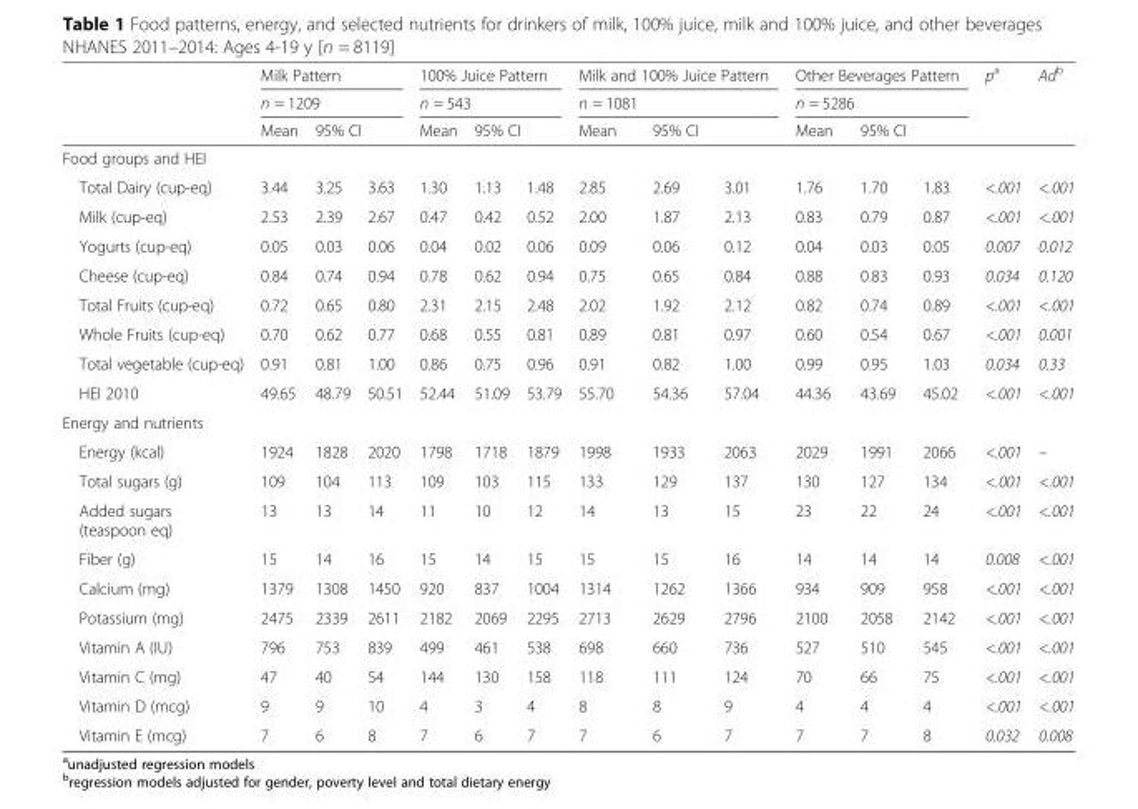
<table><thead><tr><td rowspan="3"></td><td rowspan="2" colspan="3">Milk Pattern n = 1209</td><td rowspan="2" colspan="3">100% Juice Pattern n = 543</td><td rowspan="2" colspan="3">Milk and 100% Juice Pattern n = 1081</td><td rowspan="2" colspan="3">Other Beverages Pattern n = 5286</td><td rowspan="3">p<sup>a</sup></td><td rowspan="3">Ad<sup>b</sup></td></tr><tr></tr><tr><td>Mean</td><td colspan="2">95% CI</td><td>Mean</td><td colspan="2">95% CI</td><td>Mean</td><td colspan="2">95% CI</td><td>Mean</td><td colspan="2">95% CI</td></tr><tr><td colspan="15">Food groups and HEI</td></tr><tr><td>Total Dairy (cup-eq)</td><td>3.44</td><td>3.25</td><td>3.63</td><td>1.30</td><td>1.13</td><td>1.48</td><td>2.85</td><td>2.69</td><td>3.01</td><td>1.76</td><td>1.70</td><td>1.83</td><td>&lt;.001</td><td>&lt;.001</td></tr></thead><tbody><tr><td>Milk (cup-eq)</td><td>2.53</td><td>2.39</td><td>2.67</td><td>0.47</td><td>0.42</td><td>0.52</td><td>2.00</td><td>1.87</td><td>2.13</td><td>0.83</td><td>0.79</td><td>0.87</td><td>&lt;.001</td><td>&lt;.001</td></tr><tr><td>Yogurts (cup-eq)</td><td>0.05</td><td>0.03</td><td>0.06</td><td>0.04</td><td>0.02</td><td>0.06</td><td>0.09</td><td>0.06</td><td>0.12</td><td>0.04</td><td>0.03</td><td>0.05</td><td>0.007</td><td>0.012</td></tr><tr><td>Cheese (cup-eq)</td><td>0.84</td><td>0.74</td><td>0.94</td><td>0.78</td><td>0.62</td><td>0.94</td><td>0.75</td><td>0.65</td><td>0.84</td><td>0.88</td><td>0.83</td><td>0.93</td><td>0.034</td><td>0.120</td></tr><tr><td>Total Fruits (cup-eq)</td><td>0.72</td><td>0.65</td><td>0.80</td><td>2.31</td><td>2.15</td><td>2.48</td><td>2.02</td><td>1.92</td><td>2.12</td><td>0.82</td><td>0.74</td><td>0.89</td><td>&lt;.001</td><td>&lt;.001</td></tr><tr><td>Whole Fruits (cup-eq)</td><td>0.70</td><td>0.62</td><td>0.77</td><td>0.68</td><td>0.55</td><td>0.81</td><td>0.89</td><td>0.81</td><td>0.97</td><td>0.60</td><td>0.54</td><td>0.67</td><td>&lt;.001</td><td>0.001</td></tr><tr><td>Total vegetable (cup-eq)</td><td>0.91</td><td>0.81</td><td>1.00</td><td>0.86</td><td>0.75</td><td>0.96</td><td>0.91</td><td>0.82</td><td>1.00</td><td>0.99</td><td>0.95</td><td>1.03</td><td>0.034</td><td>0.33</td></tr><tr><td>HEI 2010</td><td>49.65</td><td>48.79</td><td>50.51</td><td>52.44</td><td>51.09</td><td>53.79</td><td>55.70</td><td>54.36</td><td>57.04</td><td>44.36</td><td>43.69</td><td>45.02</td><td>&lt;.001</td><td>&lt;.001</td></tr><tr><td colspan="15">Energy and nutrients</td></tr><tr><td>Energy (kcal)</td><td>1924</td><td>1828</td><td>2020</td><td>1798</td><td>1718</td><td>1879</td><td>1998</td><td>1933</td><td>2063</td><td>2029</td><td>1991</td><td>2066</td><td>&lt;.001</td><td>–</td></tr><tr><td>Total sugars (g)</td><td>109</td><td>104</td><td>113</td><td>109</td><td>103</td><td>115</td><td>133</td><td>129</td><td>137</td><td>130</td><td>127</td><td>134</td><td>&lt;.001</td><td>&lt;.001</td></tr><tr><td>Added sugars (teaspoon eq)</td><td>13</td><td>13</td><td>14</td><td>11</td><td>10</td><td>12</td><td>14</td><td>13</td><td>15</td><td>23</td><td>22</td><td>24</td><td>&lt;.001</td><td>&lt;.001</td></tr><tr><td>Fiber (g)</td><td>15</td><td>14</td><td>16</td><td>15</td><td>14</td><td>15</td><td>15</td><td>15</td><td>16</td><td>14</td><td>14</td><td>14</td><td>0.008</td><td>&lt;.001</td></tr><tr><td>Calcium (mg)</td><td>1379</td><td>1308</td><td>1450</td><td>920</td><td>837</td><td>1004</td><td>1314</td><td>1262</td><td>1366</td><td>934</td><td>909</td><td>958</td><td>&lt;.001</td><td>&lt;.001</td></tr><tr><td>Potassium (mg)</td><td>2475</td><td>2339</td><td>2611</td><td>2182</td><td>2069</td><td>2295</td><td>2713</td><td>2629</td><td>2796</td><td>2100</td><td>2058</td><td>2142</td><td>&lt;.001</td><td>&lt;.001</td></tr><tr><td>Vitamin A (IU)</td><td>796</td><td>753</td><td>839</td><td>499</td><td>461</td><td>538</td><td>698</td><td>660</td><td>736</td><td>527</td><td>510</td><td>545</td><td>&lt;.001</td><td>&lt;.001</td></tr><tr><td>Vitamin C (mg)</td><td>47</td><td>40</td><td>54</td><td>144</td><td>130</td><td>158</td><td>118</td><td>111</td><td>124</td><td>70</td><td>66</td><td>75</td><td>&lt;.001</td><td>&lt;.001</td></tr><tr><td>Vitamin D (mcg)</td><td>9</td><td>9</td><td>10</td><td>4</td><td>3</td><td>4</td><td>8</td><td>8</td><td>9</td><td>4</td><td>4</td><td>4</td><td>&lt;.001</td><td>&lt;.001</td></tr><tr><td>Vitamin E (mcg)</td><td>7</td><td>6</td><td>8</td><td>7</td><td>6</td><td>7</td><td>7</td><td>6</td><td>7</td><td>7</td><td>7</td><td>8</td><td>0.032</td><td>0.008</td></tr></tbody></table>